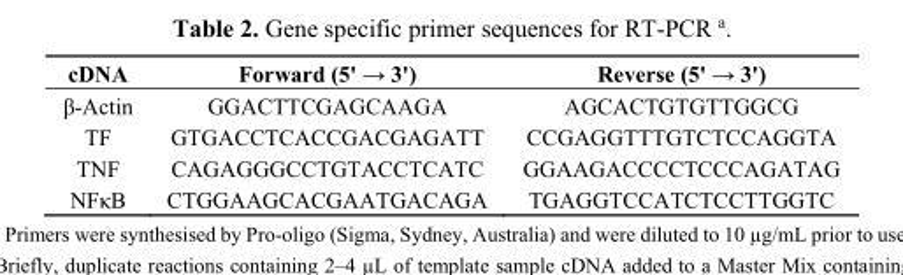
<table><thead><tr><td>cDNA</td><td>Forward (5&#x27; → 3&#x27;)</td><td>Reverse (5&#x27; → 3&#x27;)</td></tr></thead><tbody><tr><td>β-Actin</td><td>GGACTTCGAGCAAGA</td><td>AGCACTGTGTTGGCG</td></tr><tr><td>TF</td><td>GTGACCTCACCGACGAGATT</td><td>CCGAGGTTTGTCTCCAGGTA</td></tr><tr><td>TNF</td><td>CAGAGGGCCTGTACCTCATC</td><td>GGAAGACCCCTCCCAGATAG</td></tr><tr><td>NFκB</td><td>CTGGAAGCACGAATGACAGA</td><td>TGAGGTCCATCTCCTTGGTC</td></tr></tbody></table>